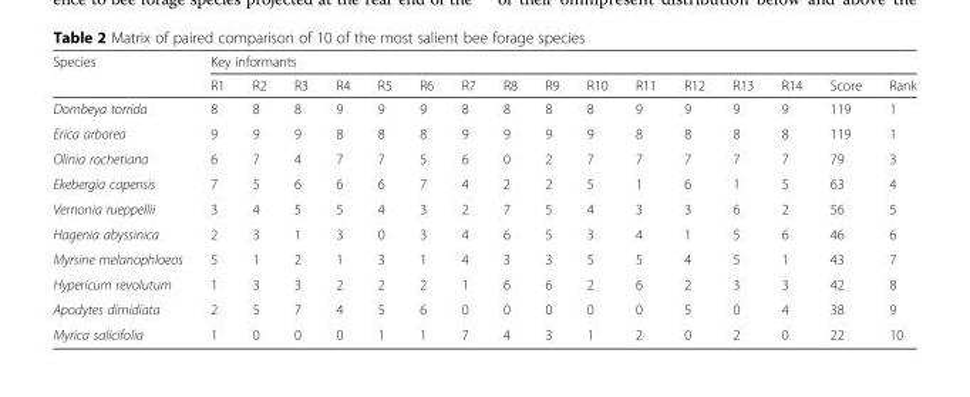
<table><thead><tr><td rowspan="2">Species</td><td colspan="16">Key informants</td></tr><tr><td>R1</td><td>R2</td><td>R3</td><td>R4</td><td>R5</td><td>R6</td><td>R7</td><td>R8</td><td>R9</td><td>R10</td><td>R11</td><td>R12</td><td>R13</td><td>R14</td><td>Score</td><td>Rank</td></tr></thead><tbody><tr><td>Dombeya torrida</td><td>8</td><td>8</td><td>8</td><td>9</td><td>9</td><td>9</td><td>8</td><td>8</td><td>8</td><td>8</td><td>9</td><td>9</td><td>9</td><td>9</td><td>119</td><td>1</td></tr><tr><td>Erica arborea</td><td>9</td><td>9</td><td>9</td><td>8</td><td>8</td><td>8</td><td>9</td><td>9</td><td>9</td><td>9</td><td>8</td><td>8</td><td>8</td><td>8</td><td>119</td><td>1</td></tr><tr><td>Olinia rochetiana</td><td>6</td><td>7</td><td>4</td><td>7</td><td>7</td><td>5</td><td>6</td><td>0</td><td>2</td><td>7</td><td>7</td><td>7</td><td>7</td><td>7</td><td>79</td><td>3</td></tr><tr><td>Ekebergia capensis</td><td>7</td><td>5</td><td>6</td><td>6</td><td>6</td><td>7</td><td>4</td><td>2</td><td>2</td><td>5</td><td>1</td><td>6</td><td>1</td><td>5</td><td>63</td><td>4</td></tr><tr><td>Vernonia rueppellii</td><td>3</td><td>4</td><td>5</td><td>5</td><td>4</td><td>3</td><td>2</td><td>7</td><td>5</td><td>4</td><td>3</td><td>3</td><td>6</td><td>2</td><td>56</td><td>5</td></tr><tr><td>Hagenia abyssinica</td><td>2</td><td>3</td><td>1</td><td>3</td><td>0</td><td>3</td><td>4</td><td>6</td><td>5</td><td>3</td><td>4</td><td>1</td><td>5</td><td>6</td><td>46</td><td>6</td></tr><tr><td>Myrsine melanophloeos</td><td>5</td><td>1</td><td>2</td><td>1</td><td>3</td><td>1</td><td>4</td><td>3</td><td>3</td><td>5</td><td>5</td><td>4</td><td>5</td><td>1</td><td>43</td><td>7</td></tr><tr><td>Hypericum revolutum</td><td>1</td><td>3</td><td>3</td><td>2</td><td>2</td><td>2</td><td>1</td><td>6</td><td>6</td><td>2</td><td>6</td><td>2</td><td>3</td><td>3</td><td>42</td><td>8</td></tr><tr><td>Apodytes dimidiata</td><td>2</td><td>5</td><td>7</td><td>4</td><td>5</td><td>6</td><td>0</td><td>0</td><td>0</td><td>0</td><td>0</td><td>5</td><td>0</td><td>4</td><td>38</td><td>9</td></tr><tr><td>Myrica salicifolia</td><td>1</td><td>0</td><td>0</td><td>0</td><td>1</td><td>1</td><td>7</td><td>4</td><td>3</td><td>1</td><td>2</td><td>0</td><td>2</td><td>0</td><td>22</td><td>10</td></tr></tbody></table>